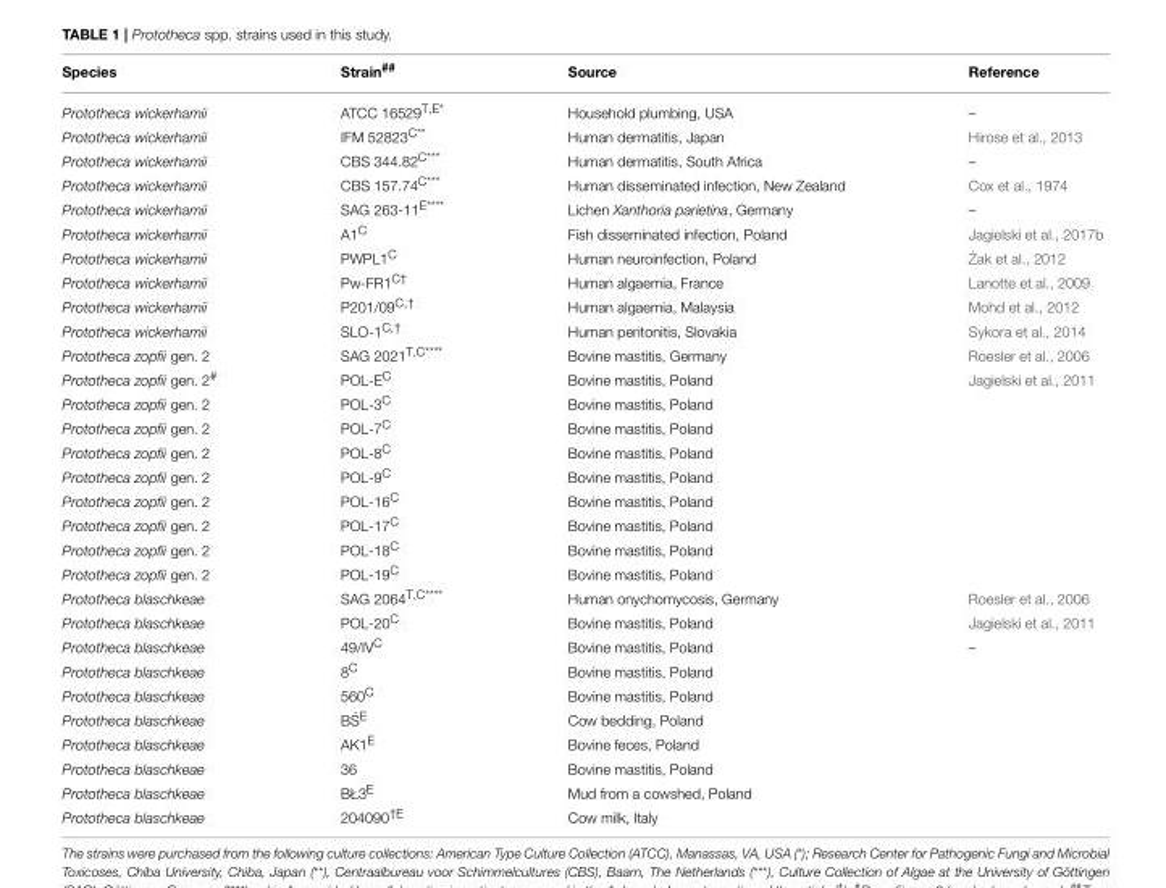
<table><thead><tr><td>Species</td><td>Strain<sup>##</sup></td><td>Source</td><td>Reference</td></tr></thead><tbody><tr><td>Prototheca wickerhamii</td><td>ATCC 16529<sup>T,E*</sup></td><td>Household plumbing, USA</td><td>–</td></tr><tr><td>Prototheca wickerhamii</td><td>IFM 52823<sup>C**</sup></td><td>Human dermatitis, Japan</td><td>Hirose et al., 2013</td></tr><tr><td>Prototheca wickerhamii</td><td>CBS 344.82<sup>C***</sup></td><td>Human dermatitis, South Africa</td><td>–</td></tr><tr><td>Prototheca wickerhamii</td><td>CBS 157.74<sup>C***</sup></td><td>Human disseminated infection, New Zealand</td><td>Cox et al., 1974</td></tr><tr><td>Prototheca wickerhamii</td><td>SAG 263-11<sup>E****</sup></td><td>Lichen Xanthoria parietina, Germany</td><td>–</td></tr><tr><td>Prototheca wickerhamii</td><td>A1<sup>C</sup></td><td>Fish disseminated infection, Poland</td><td>Jagielski et al., 2017b</td></tr><tr><td>Prototheca wickerhamii</td><td>PWPL1<sup>C</sup></td><td>Human neuroinfection, Poland</td><td>˙Zak et al., 2012</td></tr><tr><td>Prototheca wickerhamii</td><td>Pw-FR1<sup>C†</sup></td><td>Human algaemia, France</td><td>Lanotte et al., 2009</td></tr><tr><td>Prototheca wickerhamii</td><td>P201/09<sup>C,†</sup></td><td>Human algaemia, Malaysia</td><td>Mohd et al., 2012</td></tr><tr><td>Prototheca wickerhamii</td><td>SLO-1<sup>C,†</sup></td><td>Human peritonitis, Slovakia</td><td>Sykora et al., 2014</td></tr><tr><td>Prototheca zopfii gen. 2</td><td>SAG 2021<sup>T,C****</sup></td><td>Bovine mastitis, Germany</td><td>Roesler et al., 2006</td></tr><tr><td>Prototheca zopfii gen. 2<sup>#</sup></td><td>POL-E<sup>C</sup></td><td>Bovine mastitis, Poland</td><td>Jagielski et al., 2011</td></tr><tr><td>Prototheca zopfii gen. 2</td><td>POL-3<sup>C</sup></td><td>Bovine mastitis, Poland</td><td></td></tr><tr><td>Prototheca zopfii gen. 2</td><td>POL-7<sup>C</sup></td><td>Bovine mastitis, Poland</td><td></td></tr><tr><td>Prototheca zopfii gen. 2</td><td>POL-8<sup>C</sup></td><td>Bovine mastitis, Poland</td><td></td></tr><tr><td>Prototheca zopfii gen. 2</td><td>POL-9<sup>C</sup></td><td>Bovine mastitis, Poland</td><td></td></tr><tr><td>Prototheca zopfii gen. 2</td><td>POL-16<sup>C</sup></td><td>Bovine mastitis, Poland</td><td></td></tr><tr><td>Prototheca zopfii gen. 2</td><td>POL-17<sup>C</sup></td><td>Bovine mastitis, Poland</td><td></td></tr><tr><td>Prototheca zopfii gen. 2</td><td>POL-18<sup>C</sup></td><td>Bovine mastitis, Poland</td><td></td></tr><tr><td>Prototheca zopfii gen. 2</td><td>POL-19<sup>C</sup></td><td>Bovine mastitis, Poland</td><td></td></tr><tr><td>Prototheca blaschkeae</td><td>SAG 2064<sup>T,C****</sup></td><td>Human onychomycosis, Germany</td><td>Roesler et al., 2006</td></tr><tr><td>Prototheca blaschkeae</td><td>POL-20<sup>C</sup></td><td>Bovine mastitis, Poland</td><td>Jagielski et al., 2011</td></tr><tr><td>Prototheca blaschkeae</td><td>49/IV<sup>C</sup></td><td>Bovine mastitis, Poland</td><td>–</td></tr><tr><td>Prototheca blaschkeae</td><td>8<sup>C</sup></td><td>Bovine mastitis, Poland</td><td></td></tr><tr><td>Prototheca blaschkeae</td><td>560<sup>C</sup></td><td>Bovine mastitis, Poland</td><td></td></tr><tr><td>Prototheca blaschkeae</td><td>B ´SE</td><td>Cow bedding, Poland</td><td></td></tr><tr><td>Prototheca blaschkeae</td><td>AK1<sup>E</sup></td><td>Bovine feces, Poland</td><td></td></tr><tr><td>Prototheca blaschkeae</td><td>36</td><td>Bovine mastitis, Poland</td><td></td></tr><tr><td>Prototheca blaschkeae</td><td>BŁ3<sup>E</sup></td><td>Mud from a cowshed, Poland</td><td></td></tr><tr><td>Prototheca blaschkeae</td><td>204090<sup>†E</sup></td><td>Cow milk, Italy</td><td></td></tr></tbody></table>